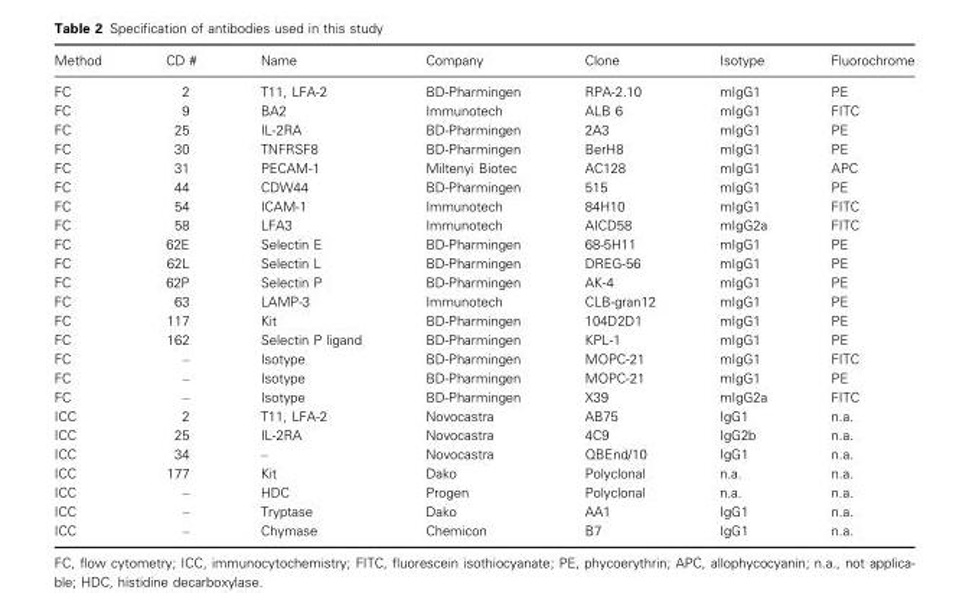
<table><thead><tr><td>Method</td><td>CD #</td><td>Name</td><td>Company</td><td>Clone</td><td>Isotype</td><td>Fluorochrome</td></tr></thead><tbody><tr><td>FC</td><td>2</td><td>T11, LFA-2</td><td>BD-Pharmingen</td><td>RPA-2.10</td><td>mIgG1</td><td>PE</td></tr><tr><td>FC</td><td>9</td><td>BA2</td><td>Immunotech</td><td>ALB 6</td><td>mIgG1</td><td>FITC</td></tr><tr><td>FC</td><td>25</td><td>IL-2RA</td><td>BD-Pharmingen</td><td>2A3</td><td>mIgG1</td><td>PE</td></tr><tr><td>FC</td><td>30</td><td>TNFRSF8</td><td>BD-Pharmingen</td><td>BerH8</td><td>mIgG1</td><td>PE</td></tr><tr><td>FC</td><td>31</td><td>PECAM-1</td><td>Miltenyi Biotec</td><td>AC128</td><td>mIgG1</td><td>APC</td></tr><tr><td>FC</td><td>44</td><td>CDW44</td><td>BD-Pharmingen</td><td>515</td><td>mIgG1</td><td>PE</td></tr><tr><td>FC</td><td>54</td><td>ICAM-1</td><td>Immunotech</td><td>84H10</td><td>mIgG1</td><td>FITC</td></tr><tr><td>FC</td><td>58</td><td>LFA3</td><td>Immunotech</td><td>AICD58</td><td>mIgG2a</td><td>FITC</td></tr><tr><td>FC</td><td>62E</td><td>Selectin E</td><td>BD-Pharmingen</td><td>68-5H11</td><td>mIgG1</td><td>PE</td></tr><tr><td>FC</td><td>62L</td><td>Selectin L</td><td>BD-Pharmingen</td><td>DREG-56</td><td>mIgG1</td><td>PE</td></tr><tr><td>FC</td><td>62P</td><td>Selectin P</td><td>BD-Pharmingen</td><td>AK-4</td><td>mIgG1</td><td>PE</td></tr><tr><td>FC</td><td>63</td><td>LAMP-3</td><td>Immunotech</td><td>CLB-gran12</td><td>mIgG1</td><td>PE</td></tr><tr><td>FC</td><td>117</td><td>Kit</td><td>BD-Pharmingen</td><td>104D2D1</td><td>mIgG1</td><td>PE</td></tr><tr><td>FC</td><td>162</td><td>Selectin P ligand</td><td>BD-Pharmingen</td><td>KPL-1</td><td>mIgG1</td><td>PE</td></tr><tr><td>FC</td><td>–</td><td>Isotype</td><td>BD-Pharmingen</td><td>MOPC-21</td><td>mIgG1</td><td>FITC</td></tr><tr><td>FC</td><td>–</td><td>Isotype</td><td>BD-Pharmingen</td><td>MOPC-21</td><td>mIgG1</td><td>PE</td></tr><tr><td>FC</td><td>–</td><td>Isotype</td><td>BD-Pharmingen</td><td>X39</td><td>mIgG2a</td><td>FITC</td></tr><tr><td>ICC</td><td>2</td><td>T11, LFA-2</td><td>Novocastra</td><td>AB75</td><td>IgG1</td><td>n.a.</td></tr><tr><td>ICC</td><td>25</td><td>IL-2RA</td><td>Novocastra</td><td>4C9</td><td>IgG2b</td><td>n.a.</td></tr><tr><td>ICC</td><td>34</td><td>–</td><td>Novocastra</td><td>QBEnd/10</td><td>IgG1</td><td>n.a.</td></tr><tr><td>ICC</td><td>177</td><td>Kit</td><td>Dako</td><td>Polyclonal</td><td>n.a.</td><td>n.a.</td></tr><tr><td>ICC</td><td>–</td><td>HDC</td><td>Progen</td><td>Polyclonal</td><td>n.a.</td><td>n.a.</td></tr><tr><td>ICC</td><td>–</td><td>Tryptase</td><td>Dako</td><td>AA1</td><td>IgG1</td><td>n.a.</td></tr><tr><td>ICC</td><td>–</td><td>Chymase</td><td>Chemicon</td><td>B7</td><td>IgG1</td><td>n.a.</td></tr></tbody></table>